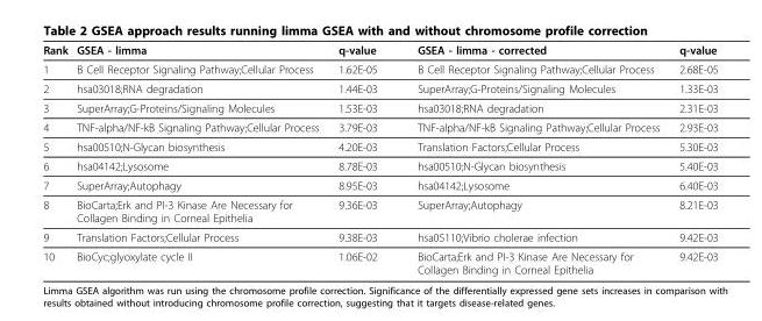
<table><thead><tr><td>Rank</td><td>GSEA - limma</td><td>q-value</td><td>GSEA - limma - corrected</td><td>q-value</td></tr></thead><tbody><tr><td>1</td><td>B Cell Receptor Signaling Pathway;Cellular Process</td><td>1.62E-05</td><td>B Cell Receptor Signaling Pathway;Cellular Process</td><td>2.68E-05</td></tr><tr><td>2</td><td>hsa03018;RNA degradation</td><td>1.44E-03</td><td>SuperArray;G-Proteins/Signaling Molecules</td><td>1.33E-03</td></tr><tr><td>3</td><td>SuperArray;G-Proteins/Signaling Molecules</td><td>1.53E-03</td><td>hsa03018;RNA degradation</td><td>2.31E-03</td></tr><tr><td>4</td><td>TNF-alpha/NF-kB Signaling Pathway;Cellular Process</td><td>3.79E-03</td><td>TNF-alpha/NF-kB Signaling Pathway;Cellular Process</td><td>2.93E-03</td></tr><tr><td>5</td><td>hsa00510;N-Glycan biosynthesis</td><td>4.20E-03</td><td>Translation Factors;Cellular Process</td><td>5.30E-03</td></tr><tr><td>6</td><td>hsa04142;Lysosome</td><td>8.78E-03</td><td>hsa00510;N-Glycan biosynthesis</td><td>5.40E-03</td></tr><tr><td>7</td><td>SuperArray;Autophagy</td><td>8.95E-03</td><td>hsa04142;Lysosome</td><td>6.40E-03</td></tr><tr><td>8</td><td>BioCarta;Erk and PI-3 Kinase Are Necessary for Collagen Binding in Corneal Epithelia</td><td>9.36E-03</td><td>SuperArray;Autophagy</td><td>8.21E-03</td></tr><tr><td>9</td><td>Translation Factors;Cellular Process</td><td>9.38E-03</td><td>hsa05110;Vibrio cholerae infection</td><td>9.42E-03</td></tr><tr><td>10</td><td>BioCyc;glyoxylate cycle II</td><td>1.06E-02</td><td>BioCarta;Erk and PI-3 Kinase Are Necessary for Collagen Binding in Corneal Epithelia</td><td>9.42E-03</td></tr></tbody></table>